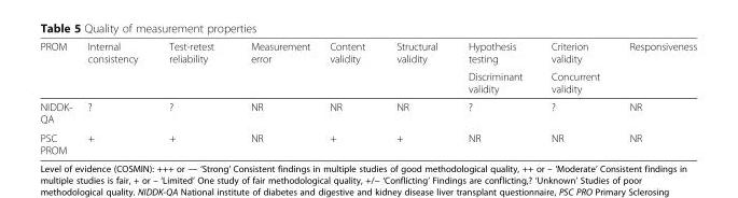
<table><thead><tr><td rowspan="2">PROM</td><td rowspan="2">Internal consistency</td><td rowspan="2">Test-retest reliability</td><td rowspan="2">Measurement error</td><td rowspan="2">Content validity</td><td rowspan="2">Structural validity</td><td rowspan="2">Hypothesis testing Discriminant validity</td><td rowspan="2">Criterion validity Concurrent validity</td><td rowspan="2">Responsiveness</td></tr><tr></tr></thead><tbody><tr><td>NIDDK- QA</td><td>?</td><td>?</td><td>NR</td><td>NR</td><td>NR</td><td>?</td><td>?</td><td>NR</td></tr><tr><td>PSC PROM</td><td>+</td><td>+</td><td>NR</td><td>+</td><td>+</td><td>NR</td><td>NR</td><td>NR</td></tr></tbody></table>